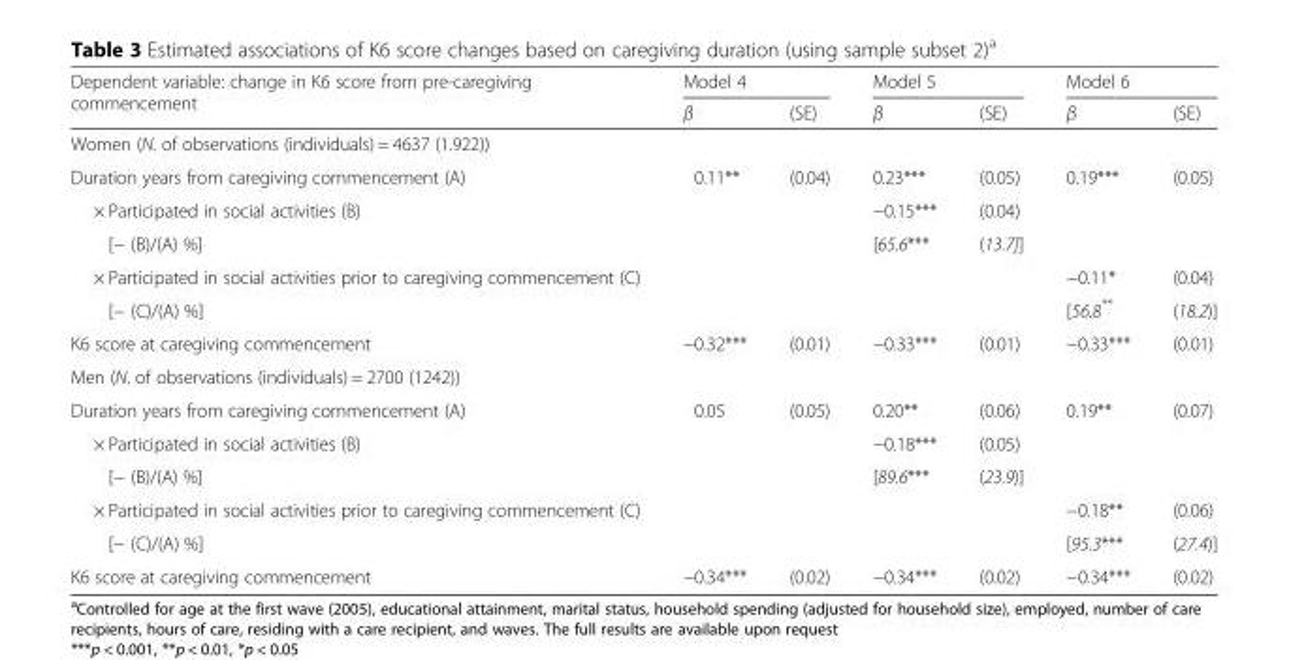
<table><thead><tr><td rowspan="2">Dependent variable: change in K6 score from pre-caregiving commencement</td><td colspan="2">Model 4</td><td colspan="2">Model 5</td><td colspan="2">Model 6</td></tr><tr><td>β</td><td>(SE)</td><td>β</td><td>(SE)</td><td>β</td><td>(SE)</td></tr></thead><tbody><tr><td colspan="7">Women (N. of observations (individuals) = 4637 (1.922))</td></tr><tr><td>Duration years from caregiving commencement (A)</td><td>0.11**</td><td>(0.04)</td><td>0.23***</td><td>(0.05)</td><td>0.19***</td><td>(0.05)</td></tr><tr><td>× Participated in social activities (B)</td><td></td><td></td><td>−0.15***</td><td>(0.04)</td><td></td><td></td></tr><tr><td>[− (B)/(A) %]</td><td></td><td></td><td>[65.6***</td><td>(13.7]]</td><td></td><td></td></tr><tr><td>× Participated in social activities prior to caregiving commencement (C)</td><td></td><td></td><td></td><td></td><td>−0.11*</td><td>(0.04)</td></tr><tr><td>[− (C)/(A) %]</td><td></td><td></td><td></td><td></td><td>[56.8**</td><td>(18.2)]</td></tr><tr><td>K6 score at caregiving commencement</td><td>−0.32***</td><td>(0.01)</td><td>−0.33***</td><td>(0.01)</td><td>−0.33***</td><td>(0.01)</td></tr><tr><td colspan="7">Men (N. of observations (individuals) = 2700 (1242))</td></tr><tr><td>Duration years from caregiving commencement (A)</td><td>0.05</td><td>(0.05)</td><td>0.20**</td><td>(0.06)</td><td>0.19**</td><td>(0.07)</td></tr><tr><td>× Participated in social activities (B)</td><td></td><td></td><td>−0.18***</td><td>(0.05)</td><td></td><td></td></tr><tr><td>[− (B)/(A) %]</td><td></td><td></td><td>[89.6***</td><td>(23.9)]</td><td></td><td></td></tr><tr><td>× Participated in social activities prior to caregiving commencement (C)</td><td></td><td></td><td></td><td></td><td>−0.18**</td><td>(0.06)</td></tr><tr><td>[− (C)/(A) %]</td><td></td><td></td><td></td><td></td><td>[95.3***</td><td>(27.4)]</td></tr><tr><td>K6 score at caregiving commencement</td><td>−0.34***</td><td>(0.02)</td><td>−0.34***</td><td>(0.02)</td><td>−0.34***</td><td>(0.02)</td></tr></tbody></table>